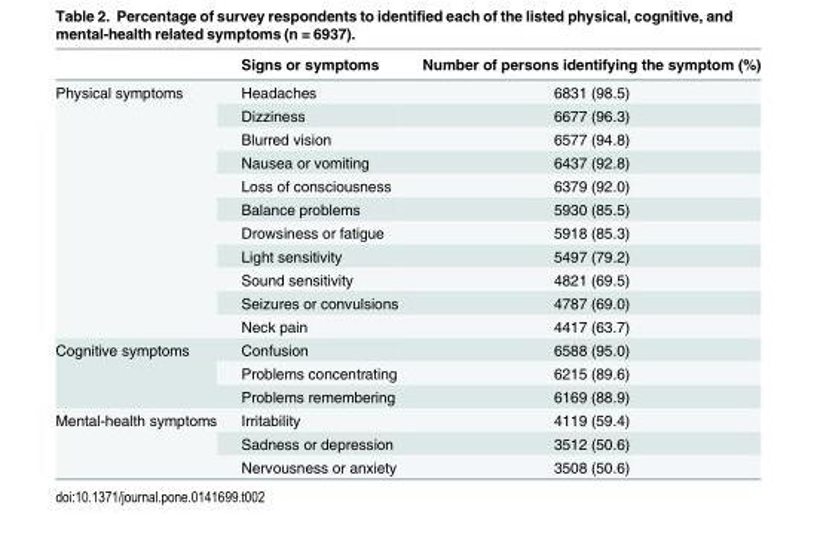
<table><thead><tr><td></td><td>Signs or symptoms</td><td>Number of persons identifying the symptom (%)</td></tr></thead><tbody><tr><td rowspan="11">Physical symptoms</td><td>Headaches</td><td>6831 (98.5)</td></tr><tr><td>Dizziness</td><td>6677 (96.3)</td></tr><tr><td>Blurred vision</td><td>6577 (94.8)</td></tr><tr><td>Nausea or vomiting</td><td>6437 (92.8)</td></tr><tr><td>Loss of consciousness</td><td>6379 (92.0)</td></tr><tr><td>Balance problems</td><td>5930 (85.5)</td></tr><tr><td>Drowsiness or fatigue</td><td>5918 (85.3)</td></tr><tr><td>Light sensitivity</td><td>5497 (79.2)</td></tr><tr><td>Sound sensitivity</td><td>4821 (69.5)</td></tr><tr><td>Seizures or convulsions</td><td>4787 (69.0)</td></tr><tr><td>Neck pain</td><td>4417 (63.7)</td></tr><tr><td rowspan="3">Cognitive symptoms</td><td>Confusion</td><td>6588 (95.0)</td></tr><tr><td>Problems concentrating</td><td>6215 (89.6)</td></tr><tr><td>Problems remembering</td><td>6169 (88.9)</td></tr><tr><td rowspan="3">Mental-health symptoms</td><td>Irritability</td><td>4119 (59.4)</td></tr><tr><td>Sadness or depression</td><td>3512 (50.6)</td></tr><tr><td>Nervousness or anxiety</td><td>3508 (50.6)</td></tr></tbody></table>